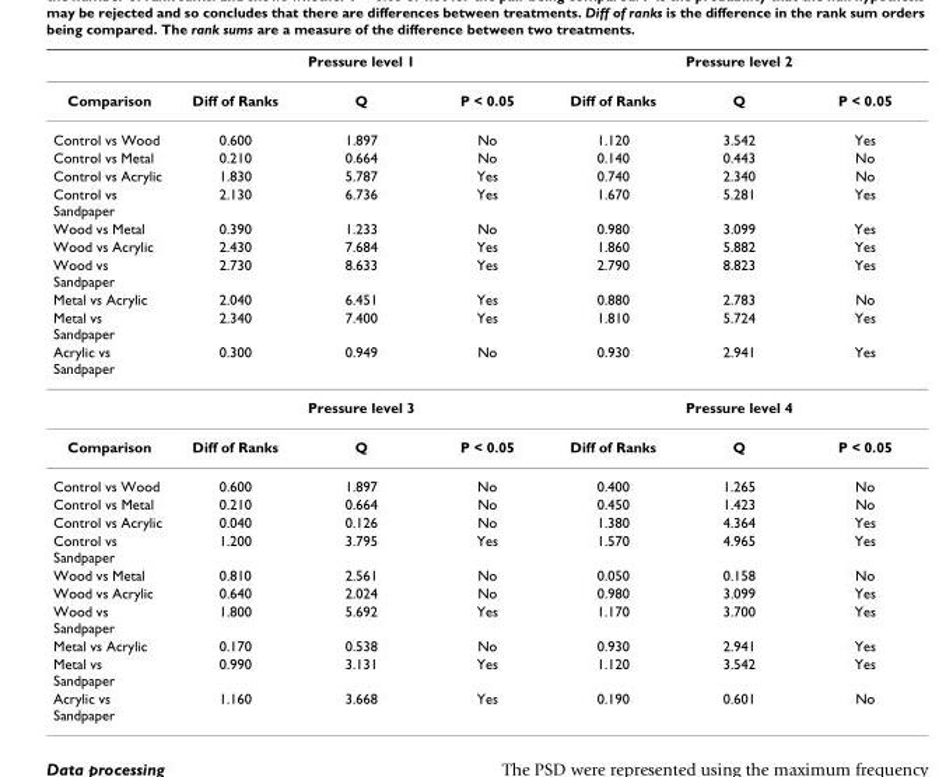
<table><thead><tr><td rowspan="2">Comparison</td><td colspan="3">Pressure level 1</td><td colspan="3">Pressure level 2</td></tr><tr><td>Diff of Ranks</td><td>Q</td><td>P &lt; 0.05</td><td>Diff of Ranks</td><td>Q</td><td>P &lt; 0.05</td></tr></thead><tbody><tr><td>Control vs Wood</td><td>0.600</td><td>1.897</td><td>No</td><td>1.120</td><td>3.542</td><td>Yes</td></tr><tr><td>Control vs Metal</td><td>0.210</td><td>0.664</td><td>No</td><td>0.140</td><td>0.443</td><td>No</td></tr><tr><td>Control vs Acrylic</td><td>1.830</td><td>5.787</td><td>Yes</td><td>0.740</td><td>2.340</td><td>No</td></tr><tr><td>Control vs Sandpaper</td><td>2.130</td><td>6.736</td><td>Yes</td><td>1.670</td><td>5.281</td><td>Yes</td></tr><tr><td>Wood vs Metal</td><td>0.390</td><td>1.233</td><td>No</td><td>0.980</td><td>3.099</td><td>Yes</td></tr><tr><td>Wood vs Acrylic</td><td>2.430</td><td>7.684</td><td>Yes</td><td>1.860</td><td>5.882</td><td>Yes</td></tr><tr><td>Wood vs Sandpaper</td><td>2.730</td><td>8.633</td><td>Yes</td><td>2.790</td><td>8.823</td><td>Yes</td></tr><tr><td>Metal vs Acrylic</td><td>2.040</td><td>6.451</td><td>Yes</td><td>0.880</td><td>2.783</td><td>No</td></tr><tr><td>Metal vs Sandpaper</td><td>2.340</td><td>7.400</td><td>Yes</td><td>1.810</td><td>5.724</td><td>Yes</td></tr><tr><td rowspan="2">Acrylic vs Sandpaper</td><td>0.300</td><td>0.949</td><td>No</td><td>0.930</td><td>2.941</td><td>Yes</td></tr><tr><td colspan="3">Pressure level 3</td><td colspan="3">Pressure level 4</td></tr><tr><td>Comparison</td><td>Diff of Ranks</td><td>Q</td><td>P &lt; 0.05</td><td>Diff of Ranks</td><td>Q</td><td>P &lt; 0.05</td></tr><tr><td>Control vs Wood</td><td>0.600</td><td>1.897</td><td>No</td><td>0.400</td><td>1.265</td><td>No</td></tr><tr><td>Control vs Metal</td><td>0.210</td><td>0.664</td><td>No</td><td>0.450</td><td>1.423</td><td>No</td></tr><tr><td>Control vs Acrylic</td><td>0.040</td><td>0.126</td><td>No</td><td>1.380</td><td>4.364</td><td>Yes</td></tr><tr><td>Control vs Sandpaper</td><td>1.200</td><td>3.795</td><td>Yes</td><td>1.570</td><td>4.965</td><td>Yes</td></tr><tr><td>Wood vs Metal</td><td>0.810</td><td>2.561</td><td>No</td><td>0.050</td><td>0.158</td><td>No</td></tr><tr><td>Wood vs Acrylic</td><td>0.640</td><td>2.024</td><td>No</td><td>0.980</td><td>3.099</td><td>Yes</td></tr><tr><td>Wood vs Sandpaper</td><td>1.800</td><td>5.692</td><td>Yes</td><td>1.170</td><td>3.700</td><td>Yes</td></tr><tr><td>Metal vs Acrylic</td><td>0.170</td><td>0.538</td><td>No</td><td>0.930</td><td>2.941</td><td>Yes</td></tr><tr><td>Metal vs Sandpaper</td><td>0.990</td><td>3.131</td><td>Yes</td><td>1.120</td><td>3.542</td><td>Yes</td></tr><tr><td>Acrylic vs Sandpaper</td><td>1.160</td><td>3.668</td><td>Yes</td><td>0.190</td><td>0.601</td><td>No</td></tr></tbody></table>